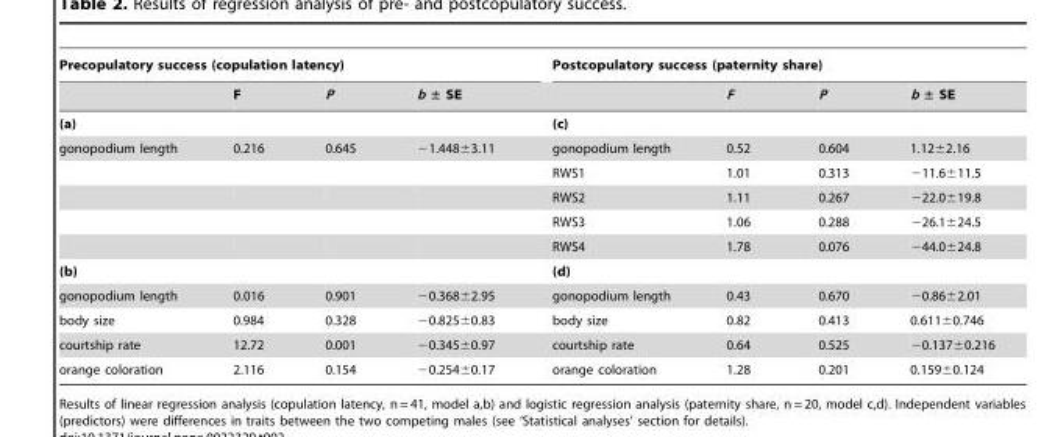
<table><thead><tr><td colspan="4">Precopulatory success (copulation latency)</td><td colspan="4">Postcopulatory success (paternity share)</td></tr><tr><td></td><td>F</td><td>P</td><td>b ± SE</td><td></td><td>F</td><td>P</td><td>b ± SE</td></tr></thead><tbody><tr><td>(a)</td><td></td><td></td><td></td><td>(c)</td><td></td><td></td><td></td></tr><tr><td rowspan="5">gonopodium length</td><td>0.216</td><td>0.645</td><td>−1.448±3.11</td><td>gonopodium length</td><td>0.52</td><td>0.604</td><td>1.12±2.16</td></tr><tr><td></td><td></td><td></td><td>RWS1</td><td>1.01</td><td>0.313</td><td>−11.6±11.5</td></tr><tr><td></td><td></td><td></td><td>RWS2</td><td>1.11</td><td>0.267</td><td>−22.0±19.8</td></tr><tr><td></td><td></td><td></td><td>RWS3</td><td>1.06</td><td>0.288</td><td>−26.1±24.5</td></tr><tr><td></td><td></td><td></td><td>RWS4</td><td>1.78</td><td>0.076</td><td>−44.0±24.8</td></tr><tr><td>(b)</td><td></td><td></td><td></td><td>(d)</td><td></td><td></td><td></td></tr><tr><td>gonopodium length</td><td>0.016</td><td>0.901</td><td>−0.368±2.95</td><td>gonopodium length</td><td>0.43</td><td>0.670</td><td>−0.86±2.01</td></tr><tr><td>body size</td><td>0.984</td><td>0.328</td><td>−0.825±0.83</td><td>body size</td><td>0.82</td><td>0.413</td><td>0.611±0.746</td></tr><tr><td>courtship rate</td><td>12.72</td><td>0.001</td><td>−0.345±0.97</td><td>courtship rate</td><td>0.64</td><td>0.525</td><td>−0.137±0.216</td></tr><tr><td>orange coloration</td><td>2.116</td><td>0.154</td><td>−0.254±0.17</td><td>orange coloration</td><td>1.28</td><td>0.201</td><td>0.159±0.124</td></tr></tbody></table>